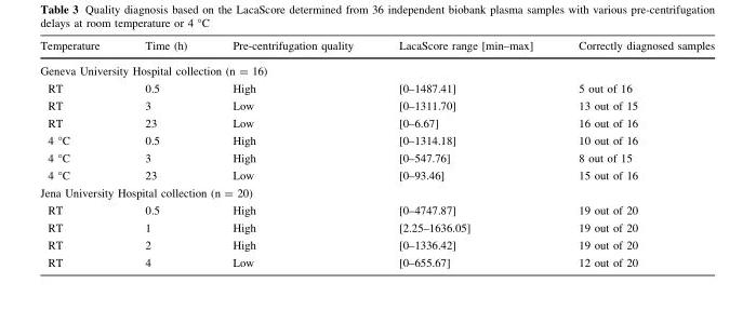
<table><thead><tr><td>Temperature</td><td>Time (h)</td><td>Pre-centrifugation quality</td><td>LacaScore range [min–max]</td><td>Correctly diagnosed samples</td></tr></thead><tbody><tr><td colspan="5">Geneva University Hospital collection (n = 16)</td></tr><tr><td>RT</td><td>0.5</td><td>High</td><td>[0–1487.41]</td><td>5 out of 16</td></tr><tr><td>RT</td><td>3</td><td>Low</td><td>[0–1311.70]</td><td>13 out of 15</td></tr><tr><td>RT</td><td>23</td><td>Low</td><td>[0–6.67]</td><td>16 out of 16</td></tr><tr><td>4 °C</td><td>0.5</td><td>High</td><td>[0–1314.18]</td><td>10 out of 16</td></tr><tr><td>4 °C</td><td>3</td><td>High</td><td>[0–547.76]</td><td>8 out of 15</td></tr><tr><td>4 °C</td><td>23</td><td>Low</td><td>[0–93.46]</td><td>15 out of 16</td></tr><tr><td colspan="5">Jena University Hospital collection (n = 20)</td></tr><tr><td>RT</td><td>0.5</td><td>High</td><td>[0–4747.87]</td><td>19 out of 20</td></tr><tr><td>RT</td><td>1</td><td>High</td><td>[2.25–1636.05]</td><td>19 out of 20</td></tr><tr><td>RT</td><td>2</td><td>High</td><td>[0–1336.42]</td><td>19 out of 20</td></tr><tr><td>RT</td><td>4</td><td>Low</td><td>[0–655.67]</td><td>12 out of 20</td></tr></tbody></table>